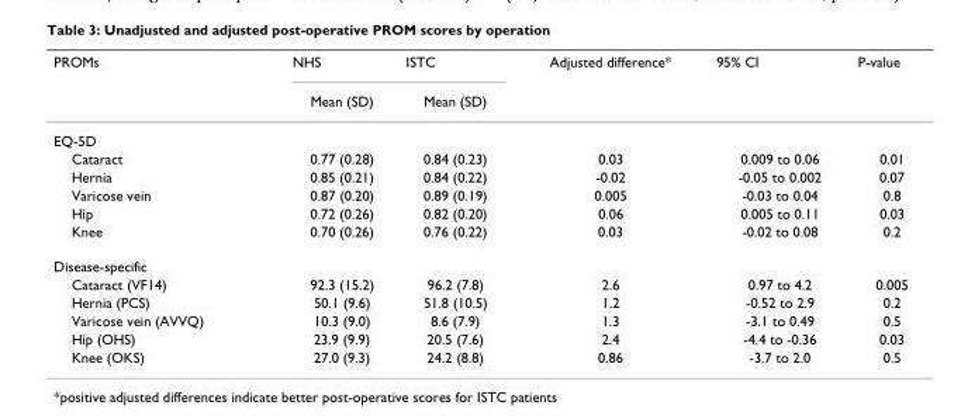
<table><thead><tr><td rowspan="2">PROMs</td><td rowspan="2">NHS Mean (SD)</td><td rowspan="2">ISTC Mean (SD)</td><td rowspan="2">Adjusted difference*</td><td rowspan="2">95% CI</td><td rowspan="2">P-value</td></tr><tr></tr></thead><tbody><tr><td colspan="6">EQ-5D</td></tr><tr><td>Cataract</td><td>0.77 (0.28)</td><td>0.84 (0.23)</td><td>0.03</td><td>0.009 to 0.06</td><td>0.01</td></tr><tr><td>Hernia</td><td>0.85 (0.21)</td><td>0.84 (0.22)</td><td>-0.02</td><td>-0.05 to 0.002</td><td>0.07</td></tr><tr><td>Varicose vein</td><td>0.87 (0.20)</td><td>0.89 (0.19)</td><td>0.005</td><td>-0.03 to 0.04</td><td>0.8</td></tr><tr><td>Hip</td><td>0.72 (0.26)</td><td>0.82 (0.20)</td><td>0.06</td><td>0.005 to 0.11</td><td>0.03</td></tr><tr><td>Knee</td><td>0.70 (0.26)</td><td>0.76 (0.22)</td><td>0.03</td><td>-0.02 to 0.08</td><td>0.2</td></tr><tr><td colspan="6">Disease-specific</td></tr><tr><td>Cataract (VF14)</td><td>92.3 (15.2)</td><td>96.2 (7.8)</td><td>2.6</td><td>0.97 to 4.2</td><td>0.005</td></tr><tr><td>Hernia (PCS)</td><td>50.1 (9.6)</td><td>51.8 (10.5)</td><td>1.2</td><td>-0.52 to 2.9</td><td>0.2</td></tr><tr><td>Varicose vein (AVVQ)</td><td>10.3 (9.0)</td><td>8.6 (7.9)</td><td>1.3</td><td>-3.1 to 0.49</td><td>0.5</td></tr><tr><td>Hip (OHS)</td><td>23.9 (9.9)</td><td>20.5 (7.6)</td><td>2.4</td><td>-4.4 to -0.36</td><td>0.03</td></tr><tr><td>Knee (OKS)</td><td>27.0 (9.3)</td><td>24.2 (8.8)</td><td>0.86</td><td>-3.7 to 2.0</td><td>0.5</td></tr></tbody></table>